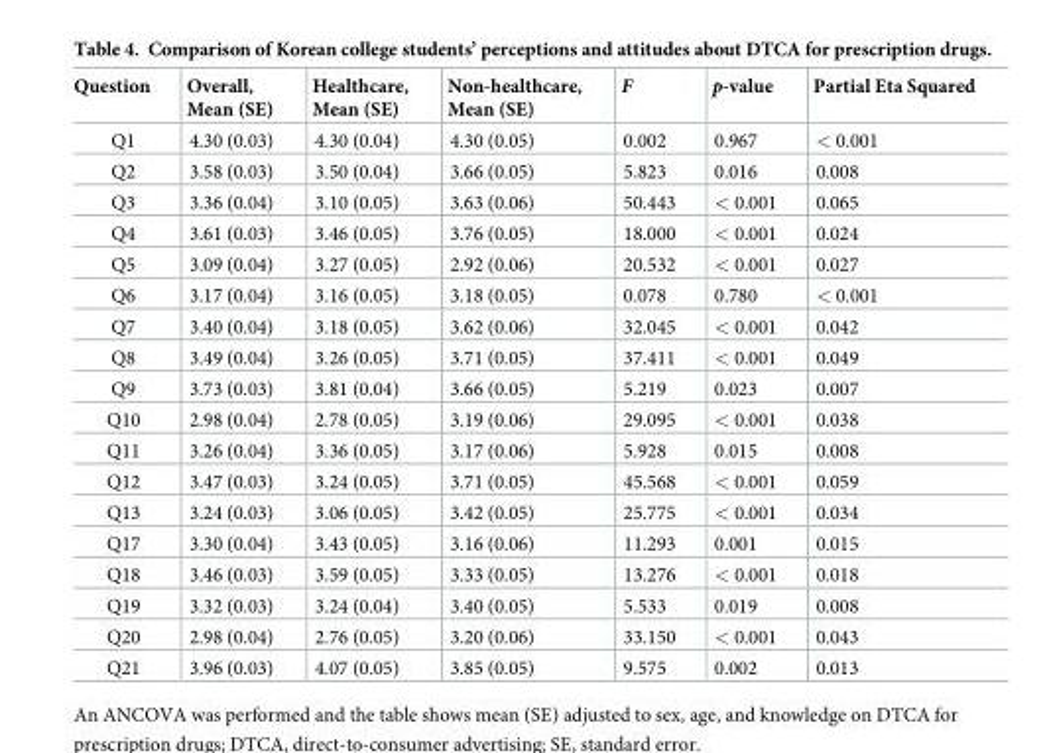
<table><thead><tr><td>Question</td><td>Overall, Mean (SE)</td><td>Healthcare, Mean (SE)</td><td>Non-healthcare, Mean (SE)</td><td>F</td><td>p-value</td><td>Partial Eta Squared</td></tr></thead><tbody><tr><td>Q1</td><td>4.30 (0.03)</td><td>4.30 (0.04)</td><td>4.30 (0.05)</td><td>0.002</td><td>0.967</td><td>&lt; 0.001</td></tr><tr><td>Q2</td><td>3.58 (0.03)</td><td>3.50 (0.04)</td><td>3.66 (0.05)</td><td>5.823</td><td>0.016</td><td>0.008</td></tr><tr><td>Q3</td><td>3.36 (0.04)</td><td>3.10 (0.05)</td><td>3.63 (0.06)</td><td>50.443</td><td>&lt; 0.001</td><td>0.065</td></tr><tr><td>Q4</td><td>3.61 (0.03)</td><td>3.46 (0.05)</td><td>3.76 (0.05)</td><td>18.000</td><td>&lt; 0.001</td><td>0.024</td></tr><tr><td>Q5</td><td>3.09 (0.04)</td><td>3.27 (0.05)</td><td>2.92 (0.06)</td><td>20.532</td><td>&lt; 0.001</td><td>0.027</td></tr><tr><td>Q6</td><td>3.17 (0.04)</td><td>3.16 (0.05)</td><td>3.18 (0.05)</td><td>0.078</td><td>0.780</td><td>&lt; 0.001</td></tr><tr><td>Q7</td><td>3.40 (0.04)</td><td>3.18 (0.05)</td><td>3.62 (0.06)</td><td>32.045</td><td>&lt; 0.001</td><td>0.042</td></tr><tr><td>Q8</td><td>3.49 (0.04)</td><td>3.26 (0.05)</td><td>3.71 (0.05)</td><td>37.411</td><td>&lt; 0.001</td><td>0.049</td></tr><tr><td>Q9</td><td>3.73 (0.03)</td><td>3.81 (0.04)</td><td>3.66 (0.05)</td><td>5.219</td><td>0.023</td><td>0.007</td></tr><tr><td>Q10</td><td>2.98 (0.04)</td><td>2.78 (0.05)</td><td>3.19 (0.06)</td><td>29.095</td><td>&lt; 0.001</td><td>0.038</td></tr><tr><td>Q11</td><td>3.26 (0.04)</td><td>3.36 (0.05)</td><td>3.17 (0.06)</td><td>5.928</td><td>0.015</td><td>0.008</td></tr><tr><td>Q12</td><td>3.47 (0.03)</td><td>3.24 (0.05)</td><td>3.71 (0.05)</td><td>45.568</td><td>&lt; 0.001</td><td>0.059</td></tr><tr><td>Q13</td><td>3.24 (0.03)</td><td>3.06 (0.05)</td><td>3.42 (0.05)</td><td>25.775</td><td>&lt; 0.001</td><td>0.034</td></tr><tr><td>Q17</td><td>3.30 (0.04)</td><td>3.43 (0.05)</td><td>3.16 (0.06)</td><td>11.293</td><td>0.001</td><td>0.015</td></tr><tr><td>Q18</td><td>3.46 (0.03)</td><td>3.59 (0.05)</td><td>3.33 (0.05)</td><td>13.276</td><td>&lt; 0.001</td><td>0.018</td></tr><tr><td>Q19</td><td>3.32 (0.03)</td><td>3.24 (0.04)</td><td>3.40 (0.05)</td><td>5.533</td><td>0.019</td><td>0.008</td></tr><tr><td>Q20</td><td>2.98 (0.04)</td><td>2.76 (0.05)</td><td>3.20 (0.06)</td><td>33.150</td><td>&lt; 0.001</td><td>0.043</td></tr><tr><td>Q21</td><td>3.96 (0.03)</td><td>4.07 (0.05)</td><td>3.85 (0.05)</td><td>9.575</td><td>0.002</td><td>0.013</td></tr></tbody></table>